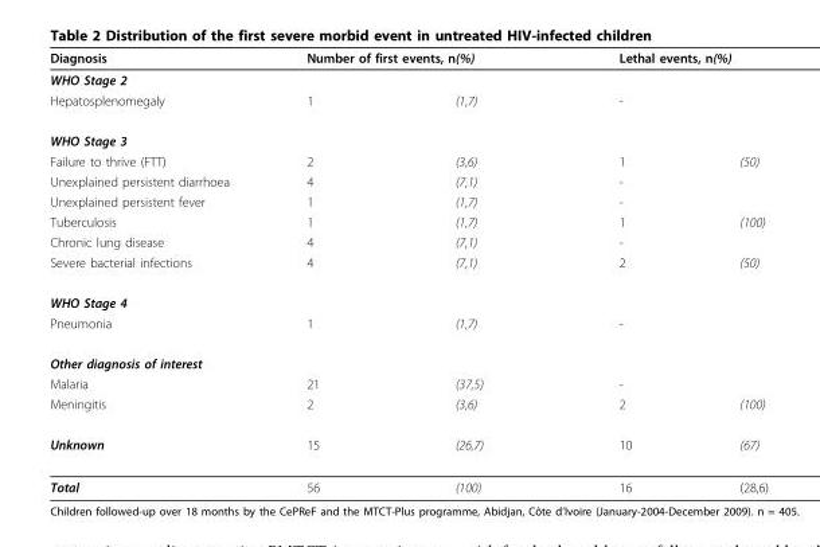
<table><thead><tr><td rowspan="2">Diagnosis WHO Stage 2</td><td colspan="2">Number of first events, n(%)</td><td colspan="2">Lethal events, n(%)</td></tr><tr><td></td><td></td><td></td><td></td></tr></thead><tbody><tr><td>Hepatosplenomegaly</td><td>1</td><td>(1,7)</td><td colspan="2">-</td></tr><tr><td colspan="5">WHO Stage 3</td></tr><tr><td>Failure to thrive (FTT)</td><td>2</td><td>(3,6)</td><td>1</td><td>(50)</td></tr><tr><td>Unexplained persistent diarrhoea</td><td>4</td><td>(7,1)</td><td colspan="2">-</td></tr><tr><td>Unexplained persistent fever</td><td>1</td><td>(1,7)</td><td colspan="2">-</td></tr><tr><td>Tuberculosis</td><td>1</td><td>(1,7)</td><td>1</td><td>(100)</td></tr><tr><td>Chronic lung disease</td><td>4</td><td>(7,1)</td><td colspan="2">-</td></tr><tr><td>Severe bacterial infections</td><td>4</td><td>(7,1)</td><td>2</td><td>(50)</td></tr><tr><td colspan="5">WHO Stage 4</td></tr><tr><td>Pneumonia</td><td>1</td><td>(1,7)</td><td colspan="2">-</td></tr><tr><td colspan="5">Other diagnosis of interest</td></tr><tr><td>Malaria</td><td>21</td><td>(37,5)</td><td colspan="2">-</td></tr><tr><td>Meningitis</td><td>2</td><td>(3,6)</td><td>2</td><td>(100)</td></tr><tr><td>Unknown</td><td>15</td><td>(26,7)</td><td>10</td><td>(67)</td></tr><tr><td>Total</td><td>56</td><td>(100)</td><td>16</td><td>(28,6)</td></tr></tbody></table>